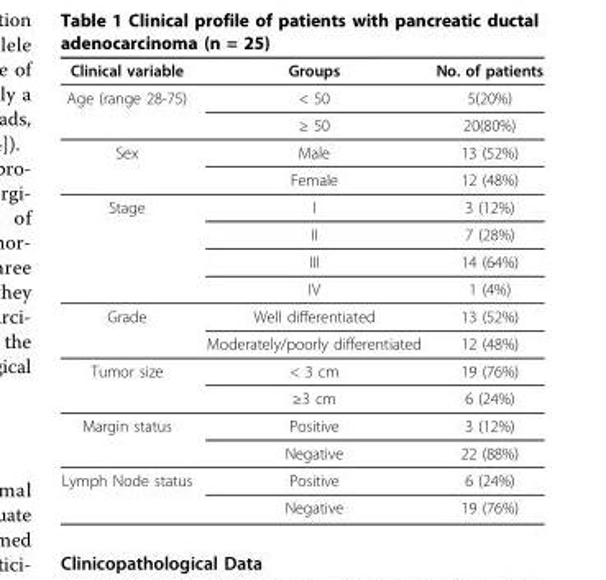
<table><thead><tr><td>Clinical variable</td><td>Groups</td><td>No. of patients</td></tr></thead><tbody><tr><td rowspan="2">Age (range 28-75)</td><td>&lt; 50</td><td>5(20%)</td></tr><tr><td>≥ 50</td><td>20(80%)</td></tr><tr><td rowspan="2">Sex</td><td>Male</td><td>13 (52%)</td></tr><tr><td>Female</td><td>12 (48%)</td></tr><tr><td rowspan="4">Stage</td><td>I</td><td>3 (12%)</td></tr><tr><td>II</td><td>7 (28%)</td></tr><tr><td>III</td><td>14 (64%)</td></tr><tr><td>IV</td><td>1 (4%)</td></tr><tr><td rowspan="2">Grade</td><td>Well differentiated</td><td>13 (52%)</td></tr><tr><td>Moderately/poorly differentiated</td><td>12 (48%)</td></tr><tr><td rowspan="2">Tumor size</td><td>&lt; 3 cm</td><td>19 (76%)</td></tr><tr><td>≥3 cm</td><td>6 (24%)</td></tr><tr><td rowspan="2">Margin status</td><td>Positive</td><td>3 (12%)</td></tr><tr><td>Negative</td><td>22 (88%)</td></tr><tr><td rowspan="2">Lymph Node status</td><td>Positive</td><td>6 (24%)</td></tr><tr><td>Negative</td><td>19 (76%)</td></tr></tbody></table>